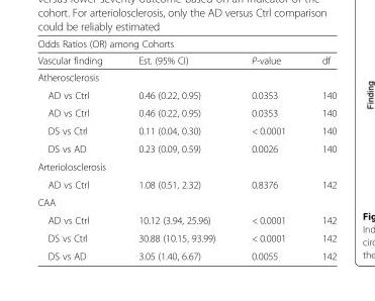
<table><thead><tr><td colspan="4">Odds Ratios (OR) among Cohorts</td></tr><tr><td>Vascular finding</td><td>Est. (95% CI)</td><td>P-value</td><td>df</td></tr></thead><tbody><tr><td colspan="4">Atherosclerosis</td></tr><tr><td>AD vs Ctrl</td><td>0.46 (0.22, 0.95)</td><td>0.0353</td><td>140</td></tr><tr><td>AD vs Ctrl</td><td>0.46 (0.22, 0.95)</td><td>0.0353</td><td>140</td></tr><tr><td>DS vs Ctrl</td><td>0.11 (0.04, 0.30)</td><td>&lt; 0.0001</td><td>140</td></tr><tr><td>DS vs AD</td><td>0.23 (0.09, 0.59)</td><td>0.0026</td><td>140</td></tr><tr><td colspan="4">Arteriolosclerosis</td></tr><tr><td>AD vs Ctrl</td><td>1.08 (0.51, 2.32)</td><td>0.8376</td><td>142</td></tr><tr><td colspan="4">CAA</td></tr><tr><td>AD vs Ctrl</td><td>10.12 (3.94, 25.96)</td><td>&lt; 0.0001</td><td>142</td></tr><tr><td>DS vs Ctrl</td><td>30.88 (10.15, 93.99)</td><td>&lt; 0.0001</td><td>142</td></tr><tr><td>DS vs AD</td><td>3.05 (1.40, 6.67)</td><td>0.0055</td><td>142</td></tr></tbody></table>